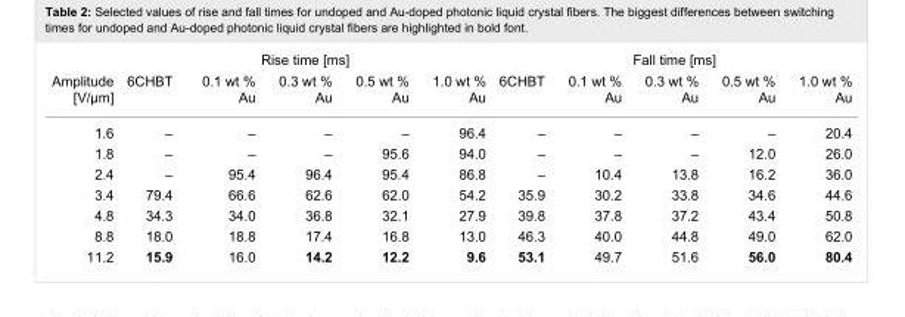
<table><thead><tr><td rowspan="2">Amplitude [V/µm]</td><td colspan="5">Rise time [ms]</td><td colspan="5">Fall time [ms]</td></tr><tr><td>6CHBT</td><td>0.1 wt % Au</td><td>0.3 wt % Au</td><td>0.5 wt % Au</td><td>1.0 wt % Au</td><td>6CHBT</td><td>0.1 wt % Au</td><td>0.3 wt % Au</td><td>0.5 wt % Au</td><td>1.0 wt % Au</td></tr></thead><tbody><tr><td>1.6</td><td>–</td><td>–</td><td>–</td><td>–</td><td>96.4</td><td>–</td><td>–</td><td>–</td><td>–</td><td>20.4</td></tr><tr><td>1.8</td><td>–</td><td>–</td><td>–</td><td>95.6</td><td>94.0</td><td>–</td><td>–</td><td>–</td><td>12.0</td><td>26.0</td></tr><tr><td>2.4</td><td>–</td><td>95.4</td><td>96.4</td><td>95.4</td><td>86.8</td><td>–</td><td>10.4</td><td>13.8</td><td>16.2</td><td>36.0</td></tr><tr><td>3.4</td><td>79.4</td><td>66.6</td><td>62.6</td><td>62.0</td><td>54.2</td><td>35.9</td><td>30.2</td><td>33.8</td><td>34.6</td><td>44.6</td></tr><tr><td>4.8</td><td>34.3</td><td>34.0</td><td>36.8</td><td>32.1</td><td>27.9</td><td>39.8</td><td>37.8</td><td>37.2</td><td>43.4</td><td>50.8</td></tr><tr><td>8.8</td><td>18.0</td><td>18.8</td><td>17.4</td><td>16.8</td><td>13.0</td><td>46.3</td><td>40.0</td><td>44.8</td><td>49.0</td><td>62.0</td></tr><tr><td>11.2</td><td>15.9</td><td>16.0</td><td>14.2</td><td>12.2</td><td>9.6</td><td>53.1</td><td>49.7</td><td>51.6</td><td>56.0</td><td>80.4</td></tr></tbody></table>